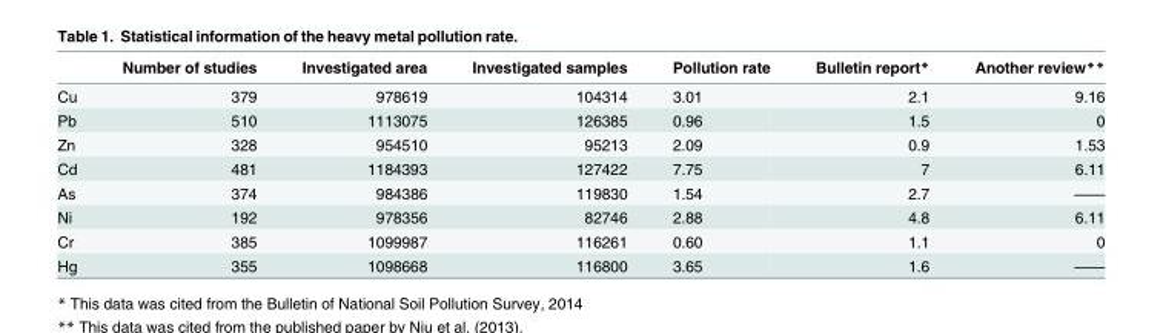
<table><thead><tr><td></td><td>Number of studies</td><td>Investigated area</td><td>Investigated samples</td><td>Pollution rate</td><td>Bulletin report*</td><td>Another review**</td></tr></thead><tbody><tr><td>Cu</td><td>379</td><td>978619</td><td>104314</td><td>3.01</td><td>2.1</td><td>9.16</td></tr><tr><td>Pb</td><td>510</td><td>1113075</td><td>126385</td><td>0.96</td><td>1.5</td><td>0</td></tr><tr><td>Zn</td><td>328</td><td>954510</td><td>95213</td><td>2.09</td><td>0.9</td><td>1.53</td></tr><tr><td>Cd</td><td>481</td><td>1184393</td><td>127422</td><td>7.75</td><td>7</td><td>6.11</td></tr><tr><td>As</td><td>374</td><td>984386</td><td>119830</td><td>1.54</td><td>2.7</td><td>——</td></tr><tr><td>Ni</td><td>192</td><td>978356</td><td>82746</td><td>2.88</td><td>4.8</td><td>6.11</td></tr><tr><td>Cr</td><td>385</td><td>1099987</td><td>116261</td><td>0.60</td><td>1.1</td><td>0</td></tr><tr><td>Hg</td><td>355</td><td>1098668</td><td>116800</td><td>3.65</td><td>1.6</td><td>——</td></tr></tbody></table>